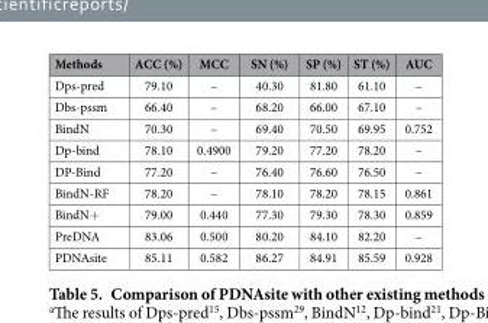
<table><thead><tr><td>Methods</td><td>ACC (%)</td><td>MCC</td><td>SN (%)</td><td>SP (%)</td><td>ST (%)</td><td>AUC</td></tr></thead><tbody><tr><td>Dps-pred</td><td>79.10</td><td>–</td><td>40.30</td><td>81.80</td><td>61.10</td><td>–</td></tr><tr><td>Dbs-pssm</td><td>66.40</td><td>–</td><td>68.20</td><td>66.00</td><td>67.10</td><td>–</td></tr><tr><td>BindN</td><td>70.30</td><td>–</td><td>69.40</td><td>70.50</td><td>69.95</td><td>0.752</td></tr><tr><td>Dp-bind</td><td>78.10</td><td>0.4900</td><td>79.20</td><td>77.20</td><td>78.20</td><td>–</td></tr><tr><td>DP-Bind</td><td>77.20</td><td>–</td><td>76.40</td><td>76.60</td><td>76.50</td><td>–</td></tr><tr><td>BindN-RF</td><td>78.20</td><td>–</td><td>78.10</td><td>78.20</td><td>78.15</td><td>0.861</td></tr><tr><td>BindN+</td><td>79.00</td><td>0.440</td><td>77.30</td><td>79.30</td><td>78.30</td><td>0.859</td></tr><tr><td>PreDNA</td><td>83.06</td><td>0.500</td><td>80.20</td><td>84.10</td><td>82.20</td><td>–</td></tr><tr><td>PDNAsite</td><td>85.11</td><td>0.582</td><td>86.27</td><td>84.91</td><td>85.59</td><td>0.928</td></tr></tbody></table>